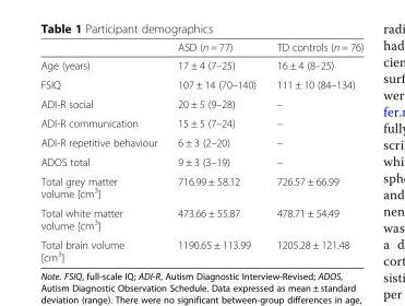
<table><thead><tr><td></td><td>ASD (n = 77)</td><td>TD controls (n = 76)</td></tr></thead><tbody><tr><td>Age (years)</td><td>17 ± 4 (7–25)</td><td>16 ± 4 (8–25)</td></tr><tr><td>FSIQ</td><td>107 ± 14 (70–140)</td><td>111 ± 10 (84–134)</td></tr><tr><td>ADI-R social</td><td>20 ± 5 (9–28)</td><td>–</td></tr><tr><td>ADI-R communication</td><td>15 ± 5 (7–24)</td><td>–</td></tr><tr><td>ADI-R repetitive behaviour</td><td>6 ± 3 (2–20)</td><td>–</td></tr><tr><td>ADOS total</td><td>9 ± 3 (3–19)</td><td>–</td></tr><tr><td>Total grey matter volume [cm<sup>3</sup>]</td><td>716.99 ± 58.12</td><td>726.57 ± 66.99</td></tr><tr><td>Total white matter volume [cm<sup>3</sup>]</td><td>473.66 ± 55.87</td><td>478.71 ± 54.49</td></tr><tr><td>Total brain volume [cm<sup>3</sup>]</td><td>1190.65 ± 113.99</td><td>1205.28 ± 121.48</td></tr></tbody></table>